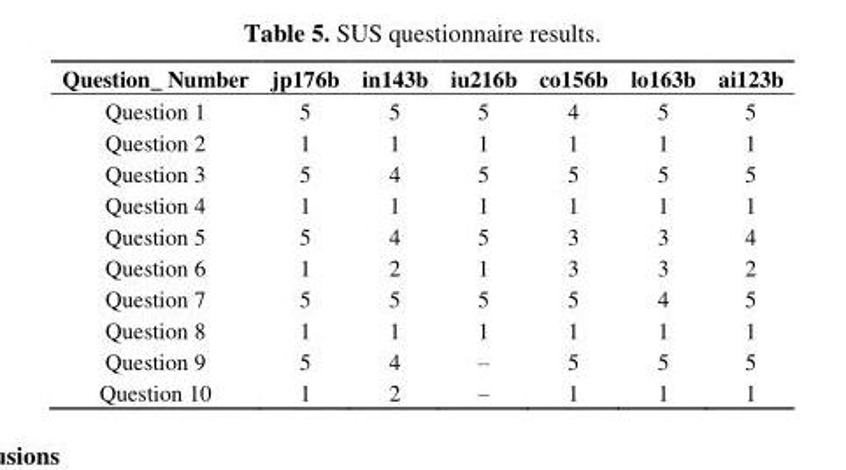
<table><thead><tr><td>Question_ Number</td><td>jp176b</td><td>in143b</td><td>iu216b</td><td>co156b</td><td>lo163b</td><td>ai123b</td></tr></thead><tbody><tr><td>Question 1</td><td>5</td><td>5</td><td>5</td><td>4</td><td>5</td><td>5</td></tr><tr><td>Question 2</td><td>1</td><td>1</td><td>1</td><td>1</td><td>1</td><td>1</td></tr><tr><td>Question 3</td><td>5</td><td>4</td><td>5</td><td>5</td><td>5</td><td>5</td></tr><tr><td>Question 4</td><td>1</td><td>1</td><td>1</td><td>1</td><td>1</td><td>1</td></tr><tr><td>Question 5</td><td>5</td><td>4</td><td>5</td><td>3</td><td>3</td><td>4</td></tr><tr><td>Question 6</td><td>1</td><td>2</td><td>1</td><td>3</td><td>3</td><td>2</td></tr><tr><td>Question 7</td><td>5</td><td>5</td><td>5</td><td>5</td><td>4</td><td>5</td></tr><tr><td>Question 8</td><td>1</td><td>1</td><td>1</td><td>1</td><td>1</td><td>1</td></tr><tr><td>Question 9</td><td>5</td><td>4</td><td>–</td><td>5</td><td>5</td><td>5</td></tr><tr><td>Question 10</td><td>1</td><td>2</td><td>–</td><td>1</td><td>1</td><td>1</td></tr></tbody></table>